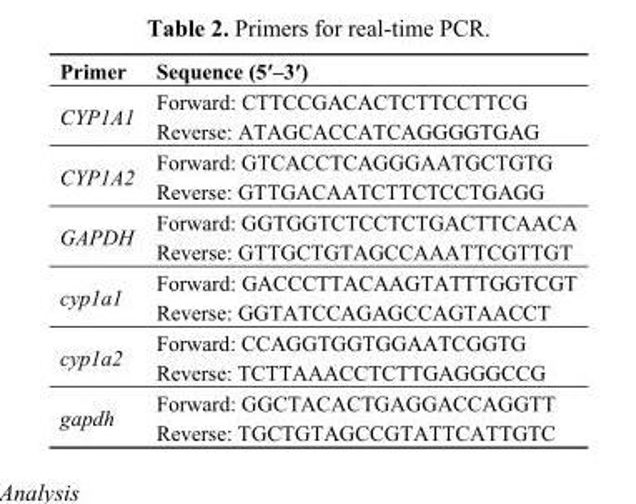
<table><thead><tr><td>Primer</td><td>Sequence (5′–3′)</td></tr></thead><tbody><tr><td rowspan="2">CYP1A1</td><td>Forward: CTTCCGACACTCTTCCTTCG</td></tr><tr><td>Reverse: ATAGCACCATCAGGGGTGAG</td></tr><tr><td rowspan="2">CYP1A2</td><td>Forward: GTCACCTCAGGGAATGCTGTG</td></tr><tr><td>Reverse: GTTGACAATCTTCTCCTGAGG</td></tr><tr><td rowspan="2">GAPDH</td><td>Forward: GGTGGTCTCCTCTGACTTCAACA</td></tr><tr><td>Reverse: GTTGCTGTAGCCAAATTCGTTGT</td></tr><tr><td rowspan="2">cyp1a1</td><td>Forward: GACCCTTACAAGTATTTGGTCGT</td></tr><tr><td>Reverse: GGTATCCAGAGCCAGTAACCT</td></tr><tr><td rowspan="2">cyp1a2</td><td>Forward: CCAGGTGGTGGAATCGGTG</td></tr><tr><td>Reverse: TCTTAAACCTCTTGAGGGCCG</td></tr><tr><td rowspan="2">gapdh</td><td>Forward: GGCTACACTGAGGACCAGGTT</td></tr><tr><td>Reverse: TGCTGTAGCCGTATTCATTGTC</td></tr></tbody></table>